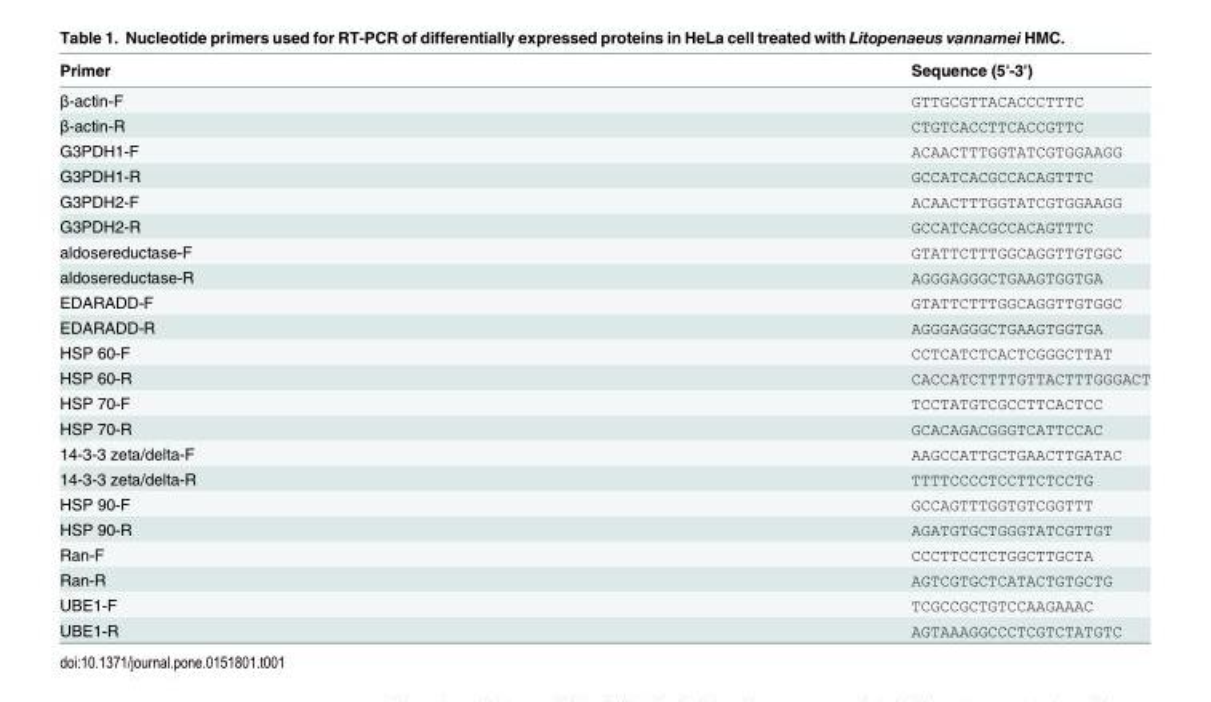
<table><thead><tr><td>Primer</td><td>Sequence (5&#x27;-3&#x27;)</td></tr></thead><tbody><tr><td>β-actin-F</td><td>GTTGCGTTACACCCTTTC</td></tr><tr><td>β-actin-R</td><td>CTGTCACCTTCACCGTTC</td></tr><tr><td>G3PDH1-F</td><td>ACAACTTTGGTATCGTGGAAGG</td></tr><tr><td>G3PDH1-R</td><td>GCCATCACGCCACAGTTTC</td></tr><tr><td>G3PDH2-F</td><td>ACAACTTTGGTATCGTGGAAGG</td></tr><tr><td>G3PDH2-R</td><td>GCCATCACGCCACAGTTTC</td></tr><tr><td>aldosereductase-F</td><td>GTATTCTTTGGCAGGTTGTGGC</td></tr><tr><td>aldosereductase-R</td><td>AGGGAGGGCTGAAGTGGTGA</td></tr><tr><td>EDARADD-F</td><td>GTATTCTTTGGCAGGTTGTGGC</td></tr><tr><td>EDARADD-R</td><td>AGGGAGGGCTGAAGTGGTGA</td></tr><tr><td>HSP 60-F</td><td>CCTCATCTCACTCGGGCTTAT</td></tr><tr><td>HSP 60-R</td><td>CACCATCTTTTGTTACTTTGGGACT</td></tr><tr><td>HSP 70-F</td><td>TCCTATGTCGCCTTCACTCC</td></tr><tr><td>HSP 70-R</td><td>GCACAGACGGGTCATTCCAC</td></tr><tr><td>14-3-3 zeta/delta-F</td><td>AAGCCATTGCTGAACTTGATAC</td></tr><tr><td>14-3-3 zeta/delta-R</td><td>TTTTCCCCTCCTTCTCCTG</td></tr><tr><td>HSP 90-F</td><td>GCCAGTTTGGTGTCGGTTT</td></tr><tr><td>HSP 90-R</td><td>AGATGTGCTGGGTATCGTTGT</td></tr><tr><td>Ran-F</td><td>CCCTTCCTCTGGCTTGCTA</td></tr><tr><td>Ran-R</td><td>AGTCGTGCTCATACTGTGCTG</td></tr><tr><td>UBE1-F</td><td>TCGCCGCTGTCCAAGAAAC</td></tr><tr><td>UBE1-R</td><td>AGTAAAGGCCCTCGTCTATGTC</td></tr></tbody></table>